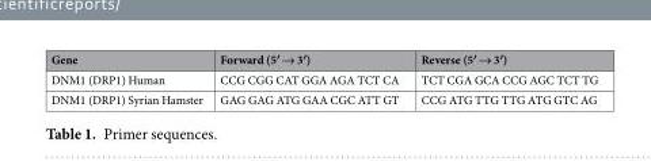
<table><thead><tr><td>Gene</td><td>Forward (5′ → 3′)</td><td>Reverse (5′ → 3′)</td></tr></thead><tbody><tr><td>DNM1 (DRP1) Human</td><td>CCG CGG CAT GGA AGA TCT CA</td><td>TCT CGA GCA CCG AGC TCT TG</td></tr><tr><td>DNM1 (DRP1) Syrian Hamster</td><td>GAG GAG ATG GAA CGC ATT GT</td><td>CCG ATG TTG TTG ATG GTC AG</td></tr></tbody></table>